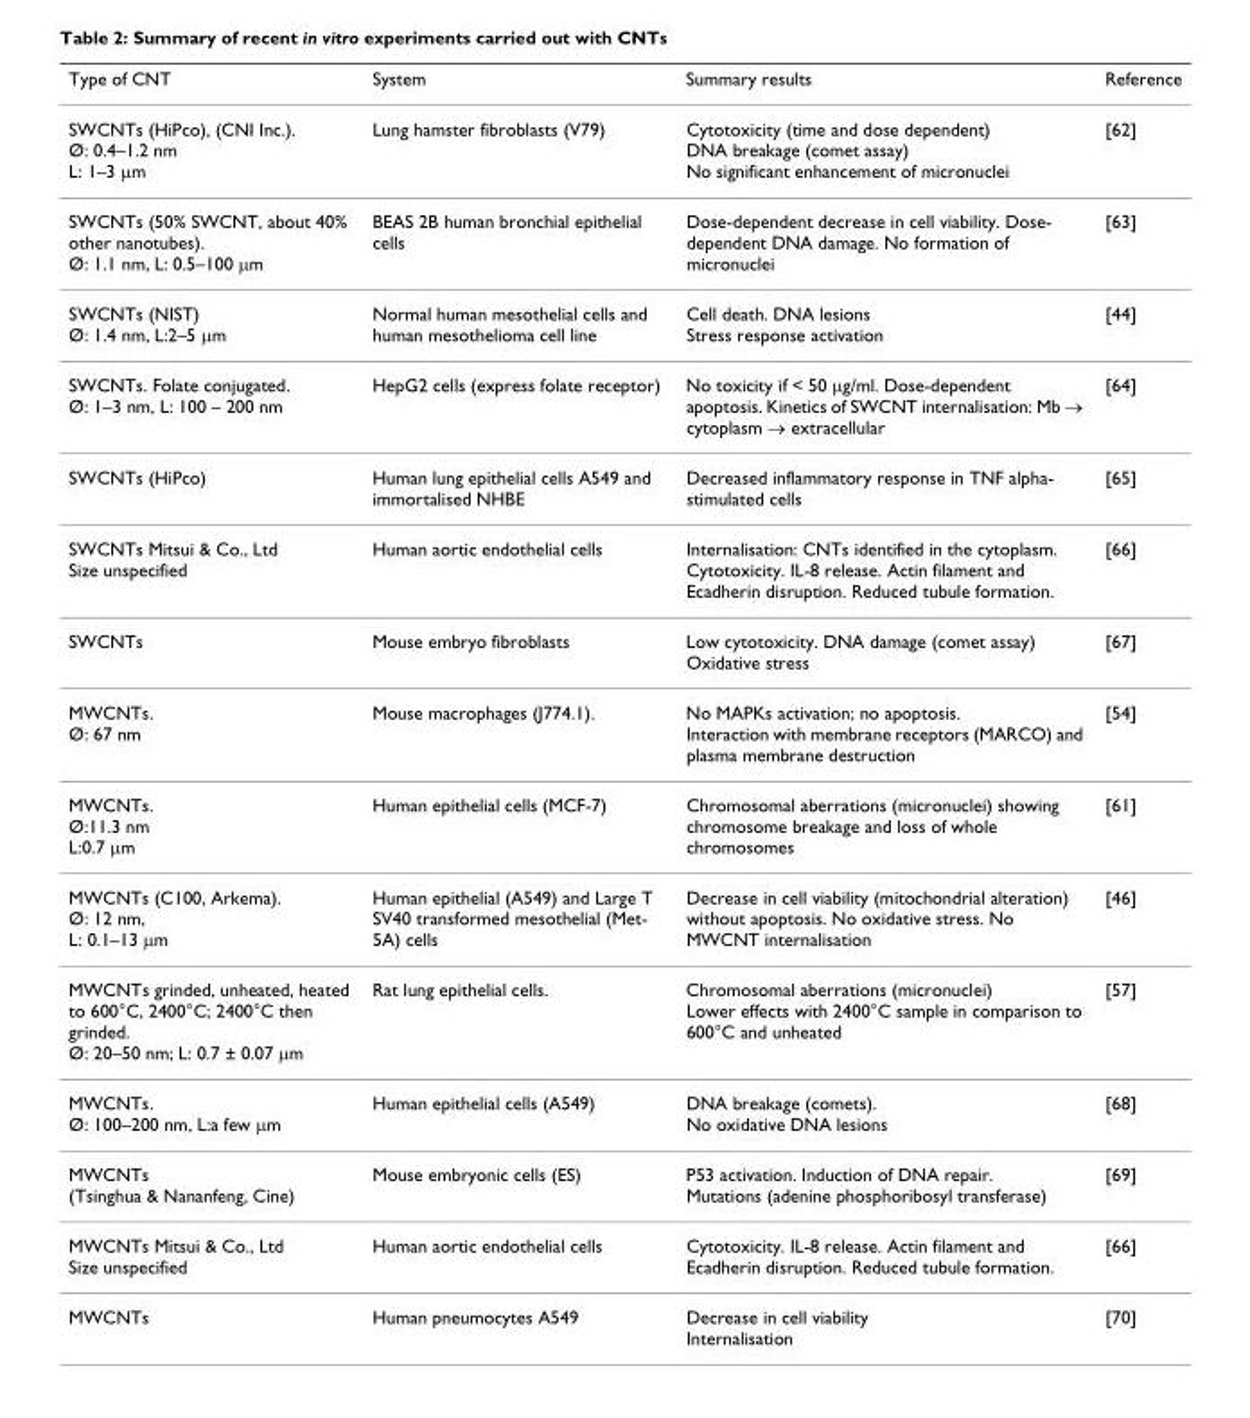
<table><thead><tr><td>Type of CNT</td><td>System</td><td>Summary results</td><td>Reference</td></tr></thead><tbody><tr><td>SWCNTs (HiPco), (CNI Inc.). Ø: 0.4–1.2 nm L: 1–3 μm</td><td>Lung hamster fibroblasts (V79)</td><td>Cytotoxicity (time and dose dependent) DNA breakage (comet assay) No significant enhancement of micronuclei</td><td>[62]</td></tr><tr><td>SWCNTs (50% SWCNT, about 40% other nanotubes). Ø: 1.1 nm, L: 0.5–100 μm</td><td>BEAS 2B human bronchial epithelial cells</td><td>Dose-dependent decrease in cell viability. Dose- dependent DNA damage. No formation of micronuclei</td><td>[63]</td></tr><tr><td>SWCNTs (NIST) Ø: 1.4 nm, L:2–5 μm</td><td>Normal human mesothelial cells and human mesothelioma cell line</td><td>Cell death. DNA lesions Stress response activation</td><td>[44]</td></tr><tr><td>SWCNTs. Folate conjugated. Ø: 1–3 nm, L: 100 – 200 nm</td><td>HepG2 cells (express folate receptor)</td><td>No toxicity if &lt; 50 μg/ml. Dose-dependent apoptosis. Kinetics of SWCNT internalisation: Mb → cytoplasm → extracellular</td><td>[64]</td></tr><tr><td>SWCNTs (HiPco)</td><td>Human lung epithelial cells A549 and immortalised NHBE</td><td>Decreased inflammatory response in TNF alpha- stimulated cells</td><td>[65]</td></tr><tr><td>SWCNTs Mitsui &amp; Co., Ltd Size unspecified</td><td>Human aortic endothelial cells</td><td>Internalisation: CNTs identified in the cytoplasm. Cytotoxicity. IL-8 release. Actin filament and Ecadherin disruption. Reduced tubule formation.</td><td>[66]</td></tr><tr><td>SWCNTs</td><td>Mouse embryo fibroblasts</td><td>Low cytotoxicity. DNA damage (comet assay) Oxidative stress</td><td>[67]</td></tr><tr><td>MWCNTs. Ø: 67 nm</td><td>Mouse macrophages (J774.1).</td><td>No MAPKs activation; no apoptosis. Interaction with membrane receptors (MARCO) and plasma membrane destruction</td><td>[54]</td></tr><tr><td>MWCNTs. Ø:11.3 nm L:0.7 μm</td><td>Human epithelial cells (MCF-7)</td><td>Chromosomal aberrations (micronuclei) showing chromosome breakage and loss of whole chromosomes</td><td>[61]</td></tr><tr><td>MWCNTs (C100, Arkema). Ø: 12 nm, L: 0.1–13 μm</td><td>Human epithelial (A549) and Large T SV40 transformed mesothelial (Met- 5A) cells</td><td>Decrease in cell viability (mitochondrial alteration) without apoptosis. No oxidative stress. No MWCNT internalisation</td><td>[46]</td></tr><tr><td>MWCNTs grinded, unheated, heated to 600°C, 2400°C; 2400°C then grinded. Ø: 20–50 nm; L: 0.7 ± 0.07 μm</td><td>Rat lung epithelial cells.</td><td>Chromosomal aberrations (micronuclei) Lower effects with 2400°C sample in comparison to 600°C and unheated</td><td>[57]</td></tr><tr><td>MWCNTs. Ø: 100–200 nm, L:a few μm</td><td>Human epithelial cells (A549)</td><td>DNA breakage (comets). No oxidative DNA lesions</td><td>[68]</td></tr><tr><td>MWCNTs (Tsinghua &amp; Nananfeng, Cine)</td><td>Mouse embryonic cells (ES)</td><td>P53 activation. Induction of DNA repair. Mutations (adenine phosphoribosyl transferase)</td><td>[69]</td></tr><tr><td>MWCNTs Mitsui &amp; Co., Ltd Size unspecified</td><td>Human aortic endothelial cells</td><td>Cytotoxicity. IL-8 release. Actin filament and Ecadherin disruption. Reduced tubule formation.</td><td>[66]</td></tr><tr><td>MWCNTs</td><td>Human pneumocytes A549</td><td>Decrease in cell viability Internalisation</td><td>[70]</td></tr></tbody></table>